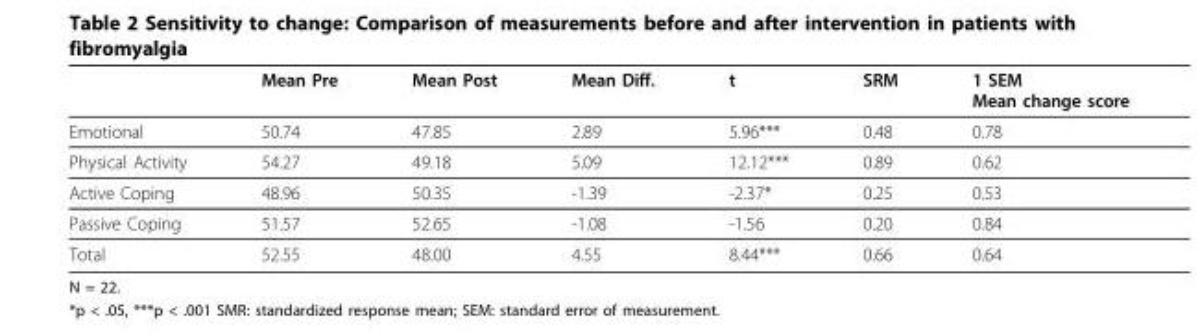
<table><thead><tr><td></td><td>Mean Pre</td><td>Mean Post</td><td>Mean Diff.</td><td>t</td><td>SRM</td><td>1 SEM Mean change score</td></tr></thead><tbody><tr><td>Emotional</td><td>50.74</td><td>47.85</td><td>2.89</td><td>5.96***</td><td>0.48</td><td>0.78</td></tr><tr><td>Physical Activity</td><td>54.27</td><td>49.18</td><td>5.09</td><td>12.12***</td><td>0.89</td><td>0.62</td></tr><tr><td>Active Coping</td><td>48.96</td><td>50.35</td><td>-1.39</td><td>-2.37*</td><td>0.25</td><td>0.53</td></tr><tr><td>Passive Coping</td><td>51.57</td><td>52.65</td><td>-1.08</td><td>-1.56</td><td>0.20</td><td>0.84</td></tr><tr><td>Total</td><td>52.55</td><td>48.00</td><td>4.55</td><td>8.44***</td><td>0.66</td><td>0.64</td></tr></tbody></table>